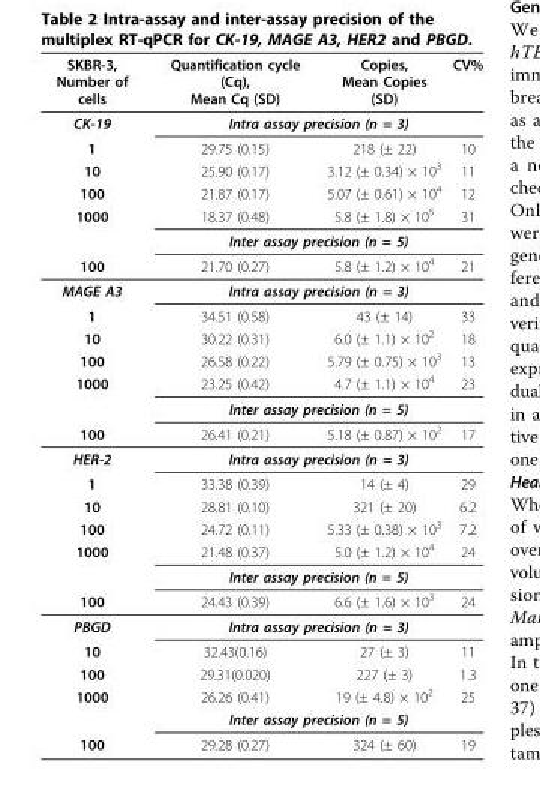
<table><thead><tr><td>SKBR-3, Number of cells</td><td>Quantification cycle (Cq), Mean Cq (SD)</td><td>Copies, Mean Copies (SD)</td><td>CV%</td></tr></thead><tbody><tr><td>CK-19</td><td colspan="3">Intra assay precision (n = 3)</td></tr><tr><td>1</td><td>29.75 (0.15)</td><td>218 (± 22)</td><td>10</td></tr><tr><td>10</td><td>25.90 (0.17)</td><td>3.12 (± 0.34) × 10<sup>3</sup></td><td>11</td></tr><tr><td>100</td><td>21.87 (0.17)</td><td>5.07 (± 0.61) × 10<sup>4</sup></td><td>12</td></tr><tr><td rowspan="2">1000</td><td>18.37 (0.48)</td><td>5.8 (± 1.8) × 10<sup>5</sup></td><td>31</td></tr><tr><td colspan="3">Inter assay precision (n = 5)</td></tr><tr><td>100</td><td>21.70 (0.27)</td><td>5.8 (± 1.2) × 10<sup>4</sup></td><td>21</td></tr><tr><td>MAGE A3</td><td colspan="3">Intra assay precision (n = 3)</td></tr><tr><td>1</td><td>34.51 (0.58)</td><td>43 (± 14)</td><td>33</td></tr><tr><td>10</td><td>30.22 (0.31)</td><td>6.0 (± 1.1) × 10<sup>2</sup></td><td>18</td></tr><tr><td>100</td><td>26.58 (0.22)</td><td>5.79 (± 0.75) × 10<sup>3</sup></td><td>13</td></tr><tr><td rowspan="2">1000</td><td>23.25 (0.42)</td><td>4.7 (± 1.1) × 10<sup>4</sup></td><td>23</td></tr><tr><td colspan="3">Inter assay precision (n = 5)</td></tr><tr><td>100</td><td>26.41 (0.21)</td><td>5.18 (± 0.87) × 10<sup>2</sup></td><td>17</td></tr><tr><td>HER-2</td><td colspan="3">Intra assay precision (n = 3)</td></tr><tr><td>1</td><td>33.38 (0.39)</td><td>14 (± 4)</td><td>29</td></tr><tr><td>10</td><td>28.81 (0.10)</td><td>321 (± 20)</td><td>6.2</td></tr><tr><td>100</td><td>24.72 (0.11)</td><td>5.33 (± 0.38) × 10<sup>3</sup></td><td>7.2</td></tr><tr><td rowspan="2">1000</td><td>21.48 (0.37)</td><td>5.0 (± 1.2) × 10<sup>4</sup></td><td>24</td></tr><tr><td colspan="3">Inter assay precision (n = 5)</td></tr><tr><td>100</td><td>24.43 (0.39)</td><td>6.6 (± 1.6) × 10<sup>3</sup></td><td>24</td></tr><tr><td>PBGD</td><td colspan="3">Intra assay precision (n = 3)</td></tr><tr><td>10</td><td>32.43(0.16)</td><td>27 (± 3)</td><td>11</td></tr><tr><td>100</td><td>29.31(0.020)</td><td>227 (± 3)</td><td>1.3</td></tr><tr><td rowspan="2">1000</td><td>26.26 (0.41)</td><td>19 (± 4.8) × 10<sup>2</sup></td><td>25</td></tr><tr><td colspan="3">Inter assay precision (n = 5)</td></tr><tr><td>100</td><td>29.28 (0.27)</td><td>324 (± 60)</td><td>19</td></tr></tbody></table>